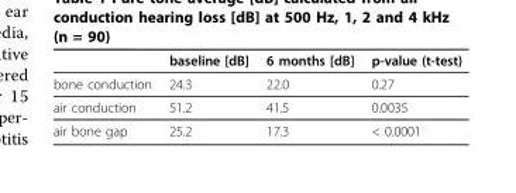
<table><thead><tr><td></td><td>baseline [dB]</td><td>6 months [dB]</td><td>p-value (t-test)</td></tr></thead><tbody><tr><td>bone conduction</td><td>24.3</td><td>22.0</td><td>0.27</td></tr><tr><td>air conduction</td><td>51.2</td><td>41.5</td><td>0.0035</td></tr><tr><td>air bone gap</td><td>25.2</td><td>17.3</td><td>&lt; 0.0001</td></tr></tbody></table>